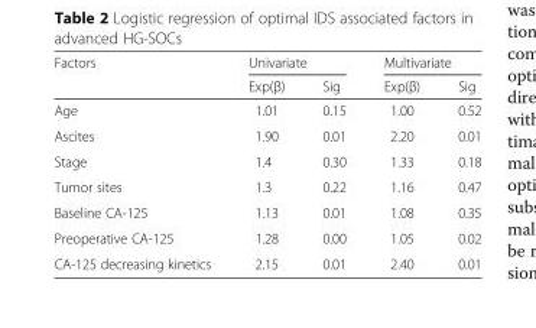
<table><thead><tr><td rowspan="2">Factors</td><td colspan="2">Univariate</td><td colspan="2">Multivariate</td></tr><tr><td>Exp(β)</td><td>Sig</td><td>Exp(β)</td><td>Sig</td></tr></thead><tbody><tr><td>Age</td><td>1.01</td><td>0.15</td><td>1.00</td><td>0.52</td></tr><tr><td>Ascites</td><td>1.90</td><td>0.01</td><td>2.20</td><td>0.01</td></tr><tr><td>Stage</td><td>1.4</td><td>0.30</td><td>1.33</td><td>0.18</td></tr><tr><td>Tumor sites</td><td>1.3</td><td>0.22</td><td>1.16</td><td>0.47</td></tr><tr><td>Baseline CA-125</td><td>1.13</td><td>0.01</td><td>1.08</td><td>0.35</td></tr><tr><td>Preoperative CA-125</td><td>1.28</td><td>0.00</td><td>1.05</td><td>0.02</td></tr><tr><td>CA-125 decreasing kinetics</td><td>2.15</td><td>0.01</td><td>2.40</td><td>0.01</td></tr></tbody></table>